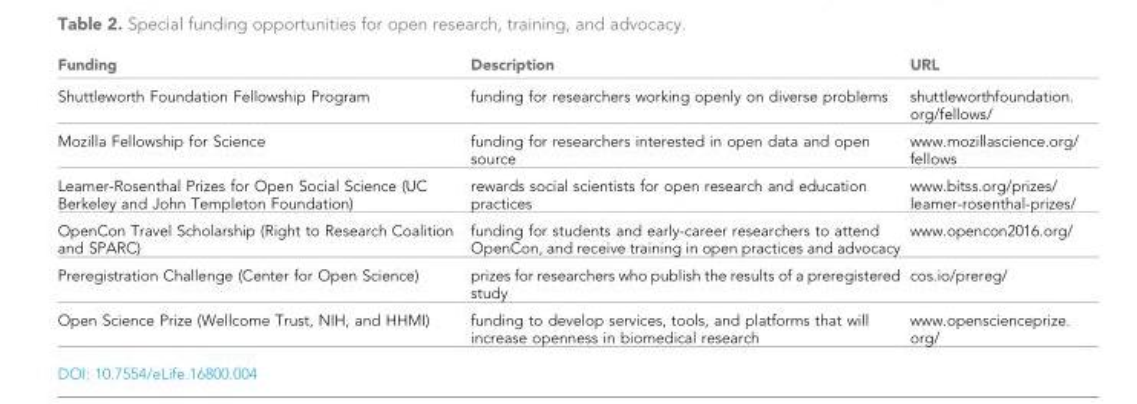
<table><thead><tr><td>Funding</td><td>Description</td><td>URL</td></tr></thead><tbody><tr><td>Shuttleworth Foundation Fellowship Program</td><td>funding for researchers working openly on diverse problems</td><td>shuttleworthfoundation. org/fellows/</td></tr><tr><td>Mozilla Fellowship for Science</td><td>funding for researchers interested in open data and open source</td><td>www.mozillascience.org/ fellows</td></tr><tr><td>Leamer-Rosenthal Prizes for Open Social Science (UC Berkeley and John Templeton Foundation)</td><td>rewards social scientists for open research and education practices</td><td>www.bitss.org/prizes/ leamer-rosenthal-prizes/</td></tr><tr><td>OpenCon Travel Scholarship (Right to Research Coalition and SPARC)</td><td>funding for students and early-career researchers to attend OpenCon, and receive training in open practices and advocacy</td><td>www.opencon2016.org/</td></tr><tr><td>Preregistration Challenge (Center for Open Science)</td><td>prizes for researchers who publish the results of a preregistered study</td><td>cos.io/prereg/</td></tr><tr><td>Open Science Prize (Wellcome Trust, NIH, and HHMI)</td><td>funding to develop services, tools, and platforms that will increase openness in biomedical research</td><td>www.openscienceprize. org/</td></tr></tbody></table>